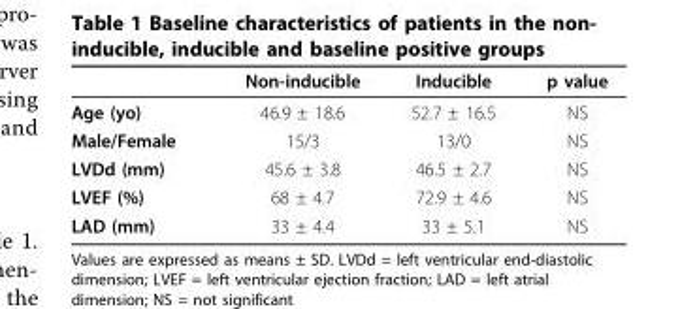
<table><thead><tr><td></td><td>Non-inducible</td><td>Inducible</td><td>p value</td></tr></thead><tbody><tr><td>Age (yo)</td><td>46.9 ± 18.6</td><td>52.7 ± 16.5</td><td>NS</td></tr><tr><td>Male/Female</td><td>15/3</td><td>13/0</td><td>NS</td></tr><tr><td>LVDd (mm)</td><td>45.6 ± 3.8</td><td>46.5 ± 2.7</td><td>NS</td></tr><tr><td>LVEF (%)</td><td>68 ± 4.7</td><td>72.9 ± 4.6</td><td>NS</td></tr><tr><td>LAD (mm)</td><td>33 ± 4.4</td><td>33 ± 5.1</td><td>NS</td></tr></tbody></table>